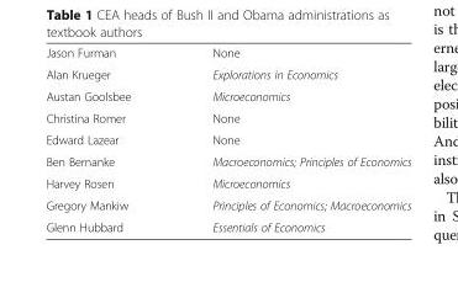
<table><tbody><tr><td>Jason Furman</td><td>None</td></tr><tr><td>Alan Krueger</td><td>Explorations in Economics</td></tr><tr><td>Austan Goolsbee</td><td>Microeconomics</td></tr><tr><td>Christina Romer</td><td>None</td></tr><tr><td>Edward Lazear</td><td>None</td></tr><tr><td>Ben Bernanke</td><td>Macroeconomics; Principles of Economics</td></tr><tr><td>Harvey Rosen</td><td>Microeconomics</td></tr><tr><td>Gregory Mankiw</td><td>Principles of Economics; Macroeconomics</td></tr><tr><td>Glenn Hubbard</td><td>Essentials of Economics</td></tr></tbody></table>